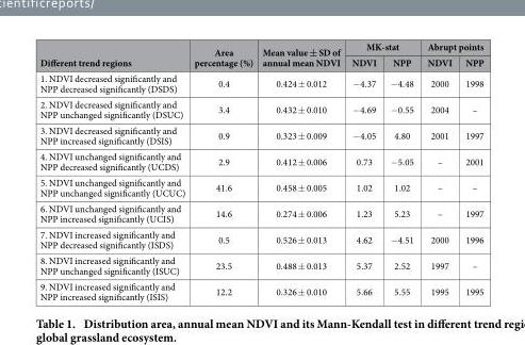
<table><thead><tr><td rowspan="2">Different trend regions</td><td rowspan="2">Area percentage (%)</td><td rowspan="2">Mean value ± SD of annual mean NDVI</td><td colspan="2">MK-stat</td><td colspan="2">Abrupt points</td></tr><tr><td>NDVI</td><td>NPP</td><td>NDVI</td><td>NPP</td></tr></thead><tbody><tr><td>1. NDVI decreased significantly and NPP decreased significantly (DSDS)</td><td>0.4</td><td>0.424 ± 0.012</td><td>− 4.37</td><td>− 4.48</td><td>2000</td><td>1998</td></tr><tr><td>2. NDVI decreased significantly and NPP unchanged significantly (DSUC)</td><td>3.4</td><td>0.432 ± 0.010</td><td>− 4.69</td><td>− 0.55</td><td>2004</td><td>–</td></tr><tr><td>3. NDVI decreased significantly and NPP increased significantly (DSIS)</td><td>0.9</td><td>0.323 ± 0.009</td><td>− 4.05</td><td>4.80</td><td>2001</td><td>1997</td></tr><tr><td>4. NDVI unchanged significantly and NPP decreased significantly (UCDS)</td><td>2.9</td><td>0.412 ± 0.006</td><td>0.73</td><td>− 5.05</td><td>–</td><td>2001</td></tr><tr><td>5. NDVI unchanged significantly and NPP unchanged significantly (UCUC)</td><td>41.6</td><td>0.458 ± 0.005</td><td>1.02</td><td>1.02</td><td>–</td><td>–</td></tr><tr><td>6. NDVI unchanged significantly and NPP increased significantly (UCIS)</td><td>14.6</td><td>0.274 ± 0.006</td><td>1.23</td><td>5.23</td><td>–</td><td>1997</td></tr><tr><td>7. NDVI increased significantly and NPP decreased significantly (ISDS)</td><td>0.5</td><td>0.526 ± 0.013</td><td>4.62</td><td>− 4.51</td><td>2000</td><td>1996</td></tr><tr><td>8. NDVI increased significantly and NPP unchanged significantly (ISUC)</td><td>23.5</td><td>0.488 ± 0.013</td><td>5.37</td><td>2.52</td><td>1997</td><td>–</td></tr><tr><td>9. NDVI increased significantly and NPP increased significantly (ISIS)</td><td>12.2</td><td>0.326 ± 0.010</td><td>5.66</td><td>5.55</td><td>1995</td><td>1995</td></tr></tbody></table>